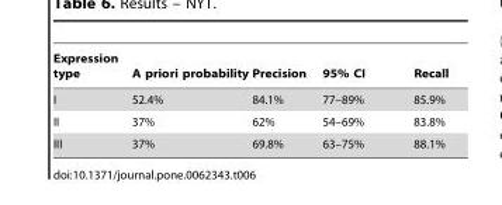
<table><thead><tr><td>Expression type</td><td>A priori probability</td><td>Precision</td><td>95% CI</td><td>Recall</td></tr></thead><tbody><tr><td>I</td><td>52.4%</td><td>84.1%</td><td>77–89%</td><td>85.9%</td></tr><tr><td>II</td><td>37%</td><td>62%</td><td>54–69%</td><td>83.8%</td></tr><tr><td>III</td><td>37%</td><td>69.8%</td><td>63–75%</td><td>88.1%</td></tr></tbody></table>